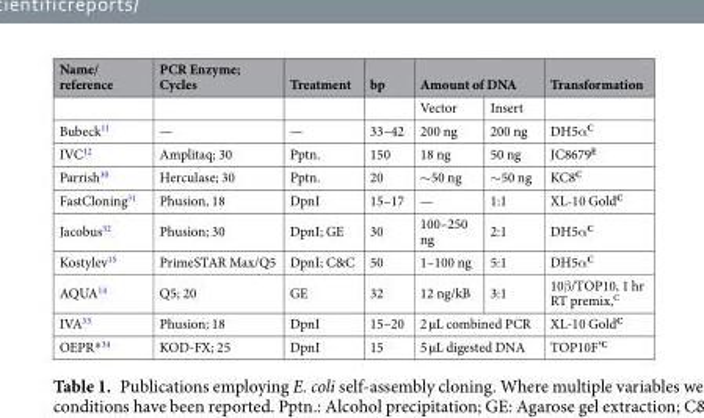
<table><thead><tr><td rowspan="2">Name/ reference</td><td rowspan="2">PCR Enzyme; Cycles</td><td rowspan="2">Treatment</td><td rowspan="2">bp</td><td colspan="2">Amount of DNA</td><td rowspan="2">Transformation</td></tr><tr><td>Vector</td><td>Insert</td></tr></thead><tbody><tr><td>Bubeck<sup>11</sup></td><td>—</td><td>—</td><td>33–42</td><td>200 ng</td><td>200 ng</td><td>DH5α<sup>C</sup></td></tr><tr><td>IVC<sup>12</sup></td><td>Amplitaq; 30</td><td>Pptn.</td><td>150</td><td>18 ng</td><td>50 ng</td><td>JC8679<sup>E</sup></td></tr><tr><td>Parrish<sup>30</sup></td><td>Herculase; 30</td><td>Pptn.</td><td>20</td><td>∼50 ng</td><td>∼50 ng</td><td>KC8<sup>C</sup></td></tr><tr><td>FastCloning<sup>31</sup></td><td>Phusion, 18</td><td>DpnI</td><td>15–17</td><td>—</td><td>1:1</td><td>XL-10 Gold<sup>C</sup></td></tr><tr><td>Jacobus<sup>32</sup></td><td>Phusion; 30</td><td>DpnI; GE</td><td>30</td><td>100–250 ng</td><td>2:1</td><td>DH5α<sup>C</sup></td></tr><tr><td>Kostylev<sup>15</sup></td><td>PrimeSTAR Max/Q5</td><td>DpnI; C&amp;C</td><td>50</td><td>1–100 ng</td><td>5:1</td><td>DH5α<sup>C</sup></td></tr><tr><td>AQUA<sup>14</sup></td><td>Q5; 20</td><td>GE</td><td>32</td><td>12 ng/kB</td><td>3:1</td><td>10β/TOP10, 1 hr RT premix,<sup>C</sup></td></tr><tr><td>IVA<sup>33</sup></td><td>Phusion; 18</td><td>DpnI</td><td>15–20</td><td colspan="2">2 µL combined PCR</td><td>XL-10 Gold<sup>C</sup></td></tr><tr><td>OEPR*<sup>34</sup></td><td>KOD-FX; 25</td><td>DpnI</td><td>15</td><td colspan="2">5 µL digested DNA</td><td>TOP10F’<sup>C</sup></td></tr></tbody></table>